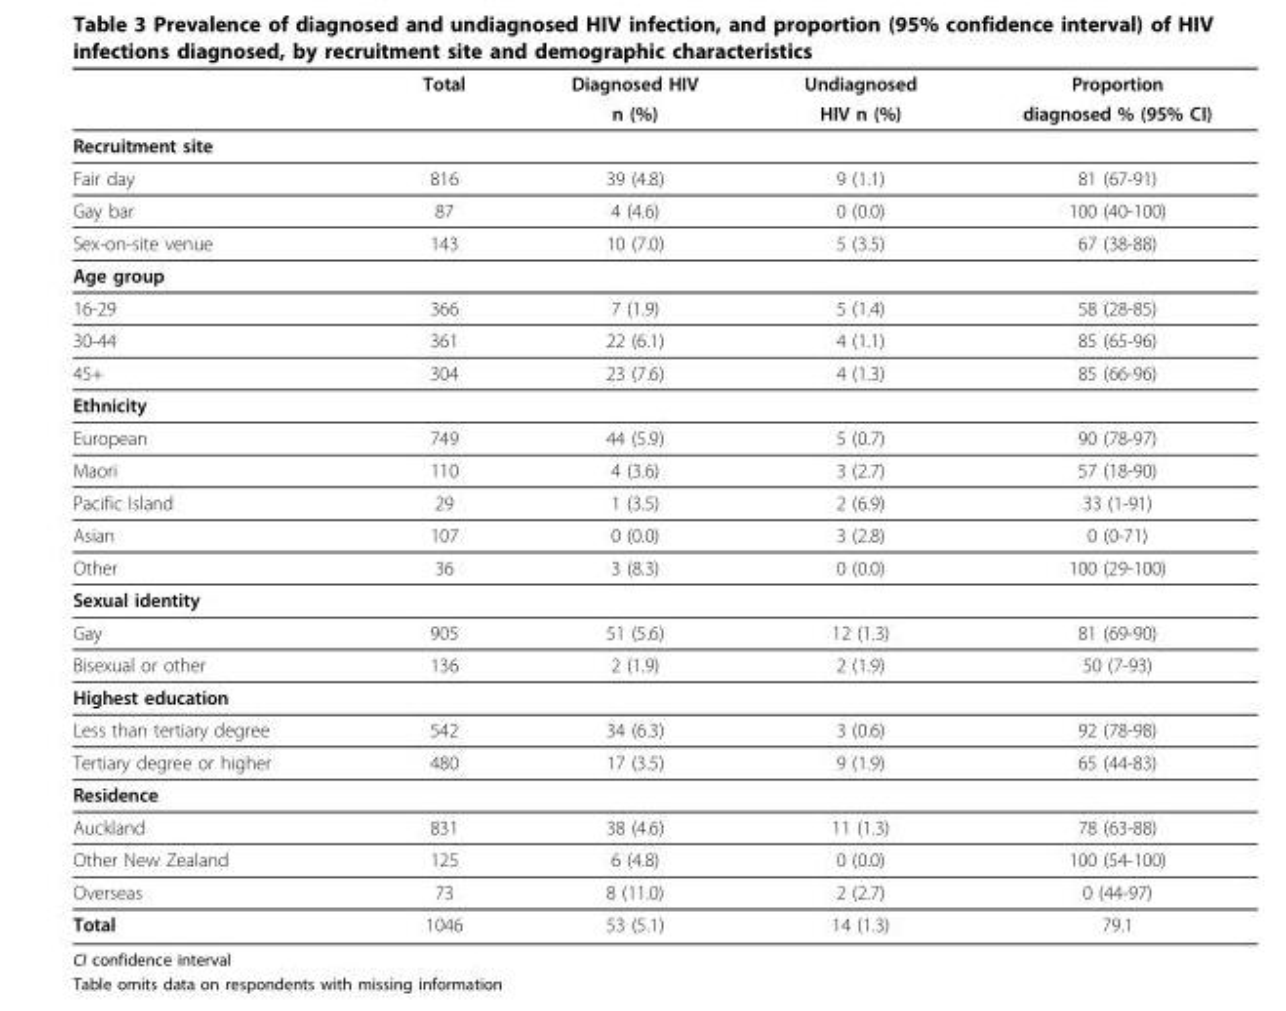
<table><thead><tr><td rowspan="2"></td><td rowspan="2">Total</td><td rowspan="2">Diagnosed HIV n (%)</td><td rowspan="2">Undiagnosed HIV n (%)</td><td rowspan="2">Proportion diagnosed % (95% CI)</td></tr><tr></tr></thead><tbody><tr><td colspan="5">Recruitment site</td></tr><tr><td>Fair day</td><td>816</td><td>39 (4.8)</td><td>9 (1.1)</td><td>81 (67-91)</td></tr><tr><td>Gay bar</td><td>87</td><td>4 (4.6)</td><td>0 (0.0)</td><td>100 (40-100)</td></tr><tr><td>Sex-on-site venue</td><td>143</td><td>10 (7.0)</td><td>5 (3.5)</td><td>67 (38-88)</td></tr><tr><td colspan="5">Age group</td></tr><tr><td>16-29</td><td>366</td><td>7 (1.9)</td><td>5 (1.4)</td><td>58 (28-85)</td></tr><tr><td>30-44</td><td>361</td><td>22 (6.1)</td><td>4 (1.1)</td><td>85 (65-96)</td></tr><tr><td>45+</td><td>304</td><td>23 (7.6)</td><td>4 (1.3)</td><td>85 (66-96)</td></tr><tr><td colspan="5">Ethnicity</td></tr><tr><td>European</td><td>749</td><td>44 (5.9)</td><td>5 (0.7)</td><td>90 (78-97)</td></tr><tr><td>Maori</td><td>110</td><td>4 (3.6)</td><td>3 (2.7)</td><td>57 (18-90)</td></tr><tr><td>Pacific Island</td><td>29</td><td>1 (3.5)</td><td>2 (6.9)</td><td>33 (1-91)</td></tr><tr><td>Asian</td><td>107</td><td>0 (0.0)</td><td>3 (2.8)</td><td>0 (0-71)</td></tr><tr><td>Other</td><td>36</td><td>3 (8.3)</td><td>0 (0.0)</td><td>100 (29-100)</td></tr><tr><td colspan="5">Sexual identity</td></tr><tr><td>Gay</td><td>905</td><td>51 (5.6)</td><td>12 (1.3)</td><td>81 (69-90)</td></tr><tr><td>Bisexual or other</td><td>136</td><td>2 (1.9)</td><td>2 (1.9)</td><td>50 (7-93)</td></tr><tr><td colspan="5">Highest education</td></tr><tr><td>Less than tertiary degree</td><td>542</td><td>34 (6.3)</td><td>3 (0.6)</td><td>92 (78-98)</td></tr><tr><td>Tertiary degree or higher</td><td>480</td><td>17 (3.5)</td><td>9 (1.9)</td><td>65 (44-83)</td></tr><tr><td colspan="5">Residence</td></tr><tr><td>Auckland</td><td>831</td><td>38 (4.6)</td><td>11 (1.3)</td><td>78 (63-88)</td></tr><tr><td>Other New Zealand</td><td>125</td><td>6 (4.8)</td><td>0 (0.0)</td><td>100 (54-100)</td></tr><tr><td>Overseas</td><td>73</td><td>8 (11.0)</td><td>2 (2.7)</td><td>0 (44-97)</td></tr><tr><td>Total</td><td>1046</td><td>53 (5.1)</td><td>14 (1.3)</td><td>79.1</td></tr></tbody></table>